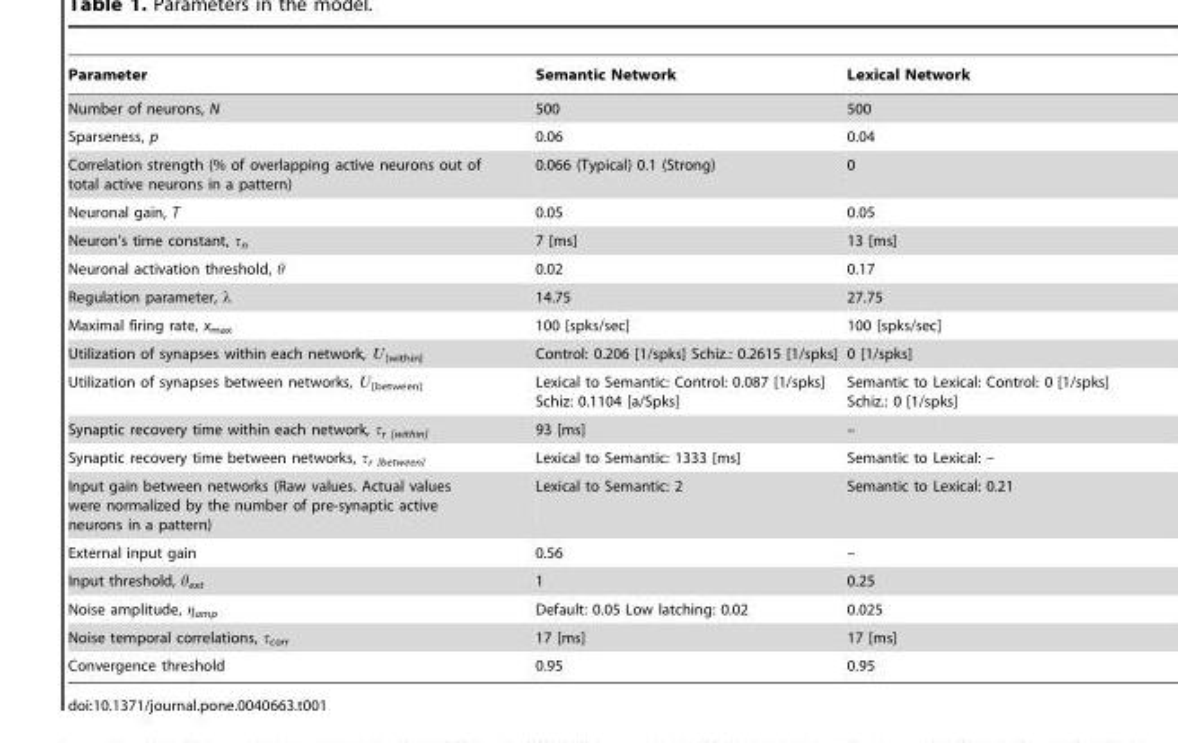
<table><thead><tr><td>Parameter</td><td>Semantic Network</td><td>Lexical Network</td></tr></thead><tbody><tr><td>Number of neurons, N</td><td>500</td><td>500</td></tr><tr><td>Sparseness, p</td><td>0.06</td><td>0.04</td></tr><tr><td>Correlation strength (% of overlapping active neurons out of total active neurons in a pattern)</td><td>0.066 (Typical) 0.1 (Strong)</td><td>0</td></tr><tr><td>Neuronal gain, T</td><td>0.05</td><td>0.05</td></tr><tr><td>Neuron’s time constant, τ<sub>n</sub></td><td>7 [ms]</td><td>13 [ms]</td></tr><tr><td>Neuronal activation threshold, θ</td><td>0.02</td><td>0.17</td></tr><tr><td>Regulation parameter, λ</td><td>14.75</td><td>27.75</td></tr><tr><td>Maximal firing rate, x<sub>max</sub></td><td>100 [spks/sec]</td><td>100 [spks/sec]</td></tr><tr><td>Utilization of synapses within each network, U[within]</td><td>Control: 0.206 [1/spks] Schiz.: 0.2615 [1/spks]</td><td>0 [1/spks]</td></tr><tr><td>Utilization of synapses between networks, U[between]</td><td>Lexical to Semantic: Control: 0.087 [1/spks] Schiz: 0.1104 [a/Spks]</td><td>Semantic to Lexical: Control: 0 [1/spks] Schiz.: 0 [1/spks]</td></tr><tr><td>Synaptic recovery time within each network, τ<sub>r [within]</sub></td><td>93 [ms]</td><td>–</td></tr><tr><td>Synaptic recovery time between networks, τ<sub>r [between]</sub></td><td>Lexical to Semantic: 1333 [ms]</td><td>Semantic to Lexical: –</td></tr><tr><td>Input gain between networks (Raw values. Actual values were normalized by the number of pre-synaptic active neurons in a pattern)</td><td>Lexical to Semantic: 2</td><td>Semantic to Lexical: 0.21</td></tr><tr><td>External input gain</td><td>0.56</td><td>–</td></tr><tr><td>Input threshold, θ<sub>ext</sub></td><td>1</td><td>0.25</td></tr><tr><td>Noise amplitude, η<sub>amp</sub></td><td>Default: 0.05 Low latching: 0.02</td><td>0.025</td></tr><tr><td>Noise temporal correlations, τ<sub>corr</sub></td><td>17 [ms]</td><td>17 [ms]</td></tr><tr><td>Convergence threshold</td><td>0.95</td><td>0.95</td></tr></tbody></table>